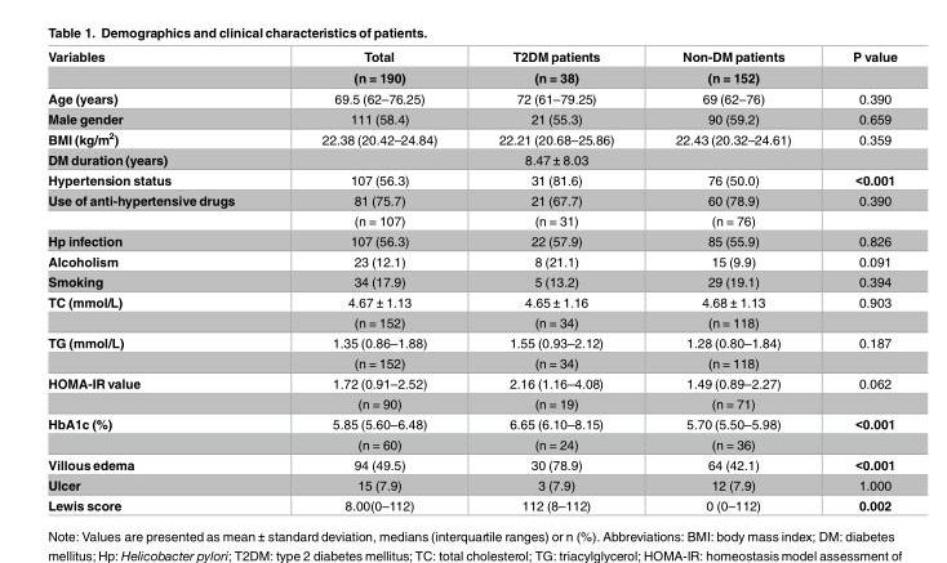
<table><thead><tr><td rowspan="2">Variables</td><td rowspan="2">Total (n = 190)</td><td rowspan="2">T2DM patients (n = 38)</td><td rowspan="2">Non-DM patients (n = 152)</td><td rowspan="2">P value</td></tr><tr></tr></thead><tbody><tr><td>Age (years)</td><td>69.5 (62–76.25)</td><td>72 (61–79.25)</td><td>69 (62–76)</td><td>0.390</td></tr><tr><td>Male gender</td><td>111 (58.4)</td><td>21 (55.3)</td><td>90 (59.2)</td><td>0.659</td></tr><tr><td>BMI (kg/m<sup>2</sup>)</td><td>22.38 (20.42–24.84)</td><td>22.21 (20.68–25.86)</td><td>22.43 (20.32–24.61)</td><td>0.359</td></tr><tr><td>DM duration (years)</td><td></td><td>8.47 ± 8.03</td><td></td><td></td></tr><tr><td>Hypertension status</td><td>107 (56.3)</td><td>31 (81.6)</td><td>76 (50.0)</td><td>&lt;0.001</td></tr><tr><td rowspan="2">Use of anti-hypertensive drugs</td><td>81 (75.7)</td><td>21 (67.7)</td><td>60 (78.9)</td><td>0.390</td></tr><tr><td>(n = 107)</td><td>(n = 31)</td><td>(n = 76)</td><td></td></tr><tr><td>Hp infection</td><td>107 (56.3)</td><td>22 (57.9)</td><td>85 (55.9)</td><td>0.826</td></tr><tr><td>Alcoholism</td><td>23 (12.1)</td><td>8 (21.1)</td><td>15 (9.9)</td><td>0.091</td></tr><tr><td>Smoking</td><td>34 (17.9)</td><td>5 (13.2)</td><td>29 (19.1)</td><td>0.394</td></tr><tr><td rowspan="2">TC (mmol/L)</td><td>4.67 ± 1.13</td><td>4.65 ± 1.16</td><td>4.68 ± 1.13</td><td>0.903</td></tr><tr><td>(n = 152)</td><td>(n = 34)</td><td>(n = 118)</td><td></td></tr><tr><td rowspan="2">TG (mmol/L)</td><td>1.35 (0.86–1.88)</td><td>1.55 (0.93–2.12)</td><td>1.28 (0.80–1.84)</td><td>0.187</td></tr><tr><td>(n = 152)</td><td>(n = 34)</td><td>(n = 118)</td><td></td></tr><tr><td rowspan="2">HOMA-IR value</td><td>1.72 (0.91–2.52)</td><td>2.16 (1.16–4.08)</td><td>1.49 (0.89–2.27)</td><td>0.062</td></tr><tr><td>(n = 90)</td><td>(n = 19)</td><td>(n = 71)</td><td></td></tr><tr><td rowspan="2">HbA1c (%)</td><td>5.85 (5.60–6.48)</td><td>6.65 (6.10–8.15)</td><td>5.70 (5.50–5.98)</td><td>&lt;0.001</td></tr><tr><td>(n = 60)</td><td>(n = 24)</td><td>(n = 36)</td><td></td></tr><tr><td>Villous edema</td><td>94 (49.5)</td><td>30 (78.9)</td><td>64 (42.1)</td><td>&lt;0.001</td></tr><tr><td>Ulcer</td><td>15 (7.9)</td><td>3 (7.9)</td><td>12 (7.9)</td><td>1.000</td></tr><tr><td>Lewis score</td><td>8.00(0–112)</td><td>112 (8–112)</td><td>0 (0–112)</td><td>0.002</td></tr></tbody></table>